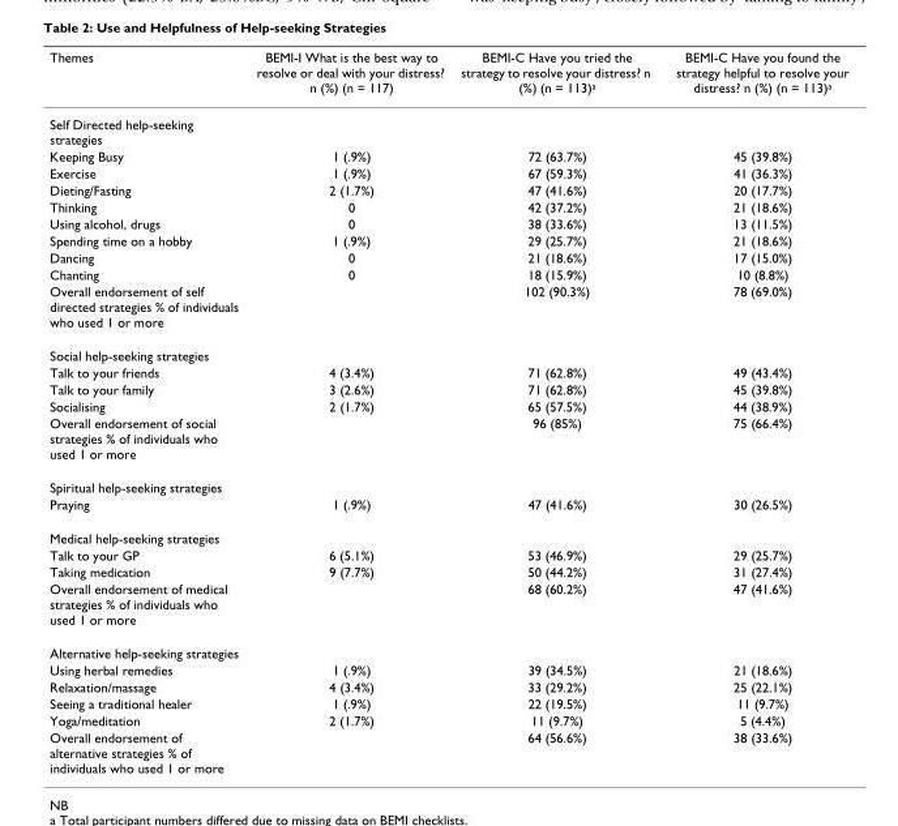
<table><thead><tr><td>Themes</td><td>BEMI-I What is the best way to resolve or deal with your distress? n (%) (n = 117)</td><td>BEMI-C Have you tried the strategy to resolve your distress? n (%) (n = 113)<sup>a</sup></td><td>BEMI-C Have you found the strategy helpful to resolve your distress? n (%) (n = 113)<sup>a</sup></td></tr></thead><tbody><tr><td colspan="4">Self Directed help-seeking strategies</td></tr><tr><td>Keeping Busy</td><td>1 (.9%)</td><td>72 (63.7%)</td><td>45 (39.8%)</td></tr><tr><td>Exercise</td><td>1 (.9%)</td><td>67 (59.3%)</td><td>41 (36.3%)</td></tr><tr><td>Dieting/Fasting</td><td>2 (1.7%)</td><td>47 (41.6%)</td><td>20 (17.7%)</td></tr><tr><td>Thinking</td><td>0</td><td>42 (37.2%)</td><td>21 (18.6%)</td></tr><tr><td>Using alcohol, drugs</td><td>0</td><td>38 (33.6%)</td><td>13 (11.5%)</td></tr><tr><td>Spending time on a hobby</td><td>1 (.9%)</td><td>29 (25.7%)</td><td>21 (18.6%)</td></tr><tr><td>Dancing</td><td>0</td><td>21 (18.6%)</td><td>17 (15.0%)</td></tr><tr><td>Chanting</td><td>0</td><td>18 (15.9%)</td><td>10 (8.8%)</td></tr><tr><td>Overall endorsement of self directed strategies % of individuals who used 1 or more</td><td></td><td>102 (90.3%)</td><td>78 (69.0%)</td></tr><tr><td colspan="4">Social help-seeking strategies</td></tr><tr><td>Talk to your friends</td><td>4 (3.4%)</td><td>71 (62.8%)</td><td>49 (43.4%)</td></tr><tr><td>Talk to your family</td><td>3 (2.6%)</td><td>71 (62.8%)</td><td>45 (39.8%)</td></tr><tr><td>Socialising</td><td>2 (1.7%)</td><td>65 (57.5%)</td><td>44 (38.9%)</td></tr><tr><td>Overall endorsement of social strategies % of individuals who used 1 or more</td><td></td><td>96 (85%)</td><td>75 (66.4%)</td></tr><tr><td colspan="4">Spiritual help-seeking strategies</td></tr><tr><td>Praying</td><td>1 (.9%)</td><td>47 (41.6%)</td><td>30 (26.5%)</td></tr><tr><td colspan="4">Medical help-seeking strategies</td></tr><tr><td>Talk to your GP</td><td>6 (5.1%)</td><td>53 (46.9%)</td><td>29 (25.7%)</td></tr><tr><td>Taking medication</td><td>9 (7.7%)</td><td>50 (44.2%)</td><td>31 (27.4%)</td></tr><tr><td>Overall endorsement of medical strategies % of individuals who used 1 or more</td><td></td><td>68 (60.2%)</td><td>47 (41.6%)</td></tr><tr><td colspan="4">Alternative help-seeking strategies</td></tr><tr><td>Using herbal remedies</td><td>1 (.9%)</td><td>39 (34.5%)</td><td>21 (18.6%)</td></tr><tr><td>Relaxation/massage</td><td>4 (3.4%)</td><td>33 (29.2%)</td><td>25 (22.1%)</td></tr><tr><td>Seeing a traditional healer</td><td>1 (.9%)</td><td>22 (19.5%)</td><td>11 (9.7%)</td></tr><tr><td>Yoga/meditation</td><td>2 (1.7%)</td><td>11 (9.7%)</td><td>5 (4.4%)</td></tr><tr><td>Overall endorsement of alternative strategies % of individuals who used 1 or more</td><td></td><td>64 (56.6%)</td><td>38 (33.6%)</td></tr></tbody></table>